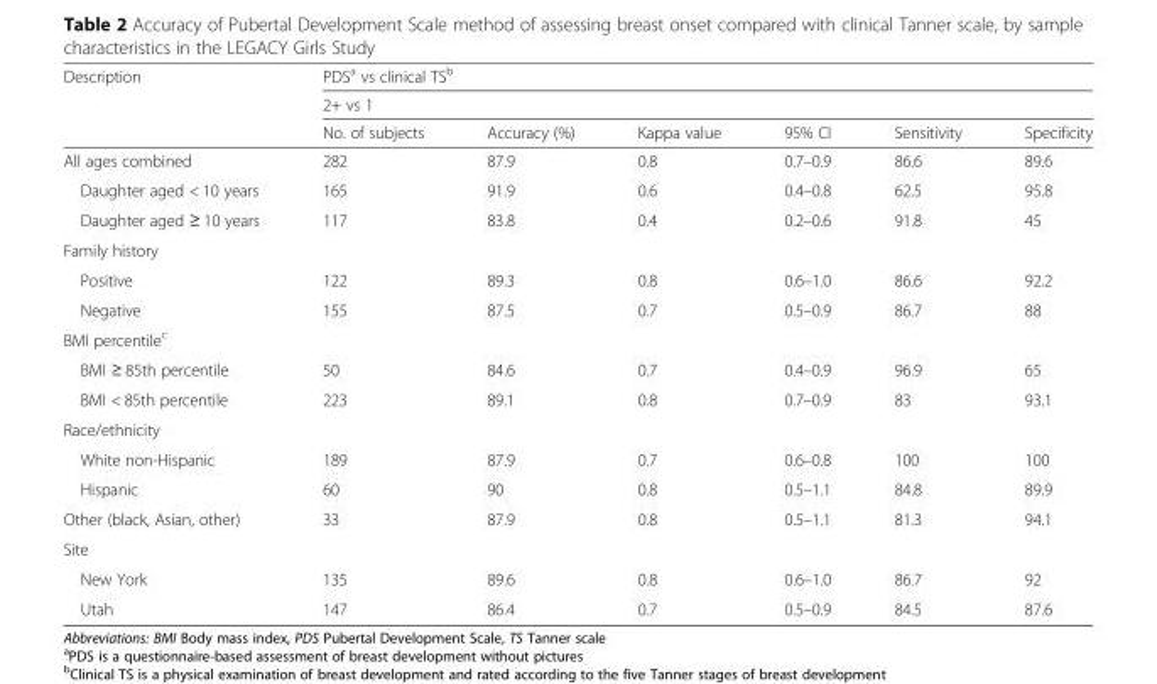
<table><thead><tr><td rowspan="3">Description</td><td rowspan="2" colspan="6">PDS<sup>a</sup> vs clinical TS<sup>b</sup> 2+ vs 1</td></tr><tr></tr><tr><td>No. of subjects</td><td>Accuracy (%)</td><td>Kappa value</td><td>95% CI</td><td>Sensitivity</td><td>Specificity</td></tr></thead><tbody><tr><td>All ages combined</td><td>282</td><td>87.9</td><td>0.8</td><td>0.7–0.9</td><td>86.6</td><td>89.6</td></tr><tr><td>Daughter aged &lt; 10 years</td><td>165</td><td>91.9</td><td>0.6</td><td>0.4–0.8</td><td>62.5</td><td>95.8</td></tr><tr><td>Daughter aged ≥ 10 years</td><td>117</td><td>83.8</td><td>0.4</td><td>0.2–0.6</td><td>91.8</td><td>45</td></tr><tr><td colspan="7">Family history</td></tr><tr><td>Positive</td><td>122</td><td>89.3</td><td>0.8</td><td>0.6–1.0</td><td>86.6</td><td>92.2</td></tr><tr><td>Negative</td><td>155</td><td>87.5</td><td>0.7</td><td>0.5–0.9</td><td>86.7</td><td>88</td></tr><tr><td colspan="7">BMI percentile<sup>c</sup></td></tr><tr><td>BMI ≥ 85th percentile</td><td>50</td><td>84.6</td><td>0.7</td><td>0.4–0.9</td><td>96.9</td><td>65</td></tr><tr><td>BMI &lt; 85th percentile</td><td>223</td><td>89.1</td><td>0.8</td><td>0.7–0.9</td><td>83</td><td>93.1</td></tr><tr><td colspan="7">Race/ethnicity</td></tr><tr><td>White non-Hispanic</td><td>189</td><td>87.9</td><td>0.7</td><td>0.6–0.8</td><td>100</td><td>100</td></tr><tr><td>Hispanic</td><td>60</td><td>90</td><td>0.8</td><td>0.5–1.1</td><td>84.8</td><td>89.9</td></tr><tr><td>Other (black, Asian, other)</td><td>33</td><td>87.9</td><td>0.8</td><td>0.5–1.1</td><td>81.3</td><td>94.1</td></tr><tr><td colspan="7">Site</td></tr><tr><td>New York</td><td>135</td><td>89.6</td><td>0.8</td><td>0.6–1.0</td><td>86.7</td><td>92</td></tr><tr><td>Utah</td><td>147</td><td>86.4</td><td>0.7</td><td>0.5–0.9</td><td>84.5</td><td>87.6</td></tr></tbody></table>